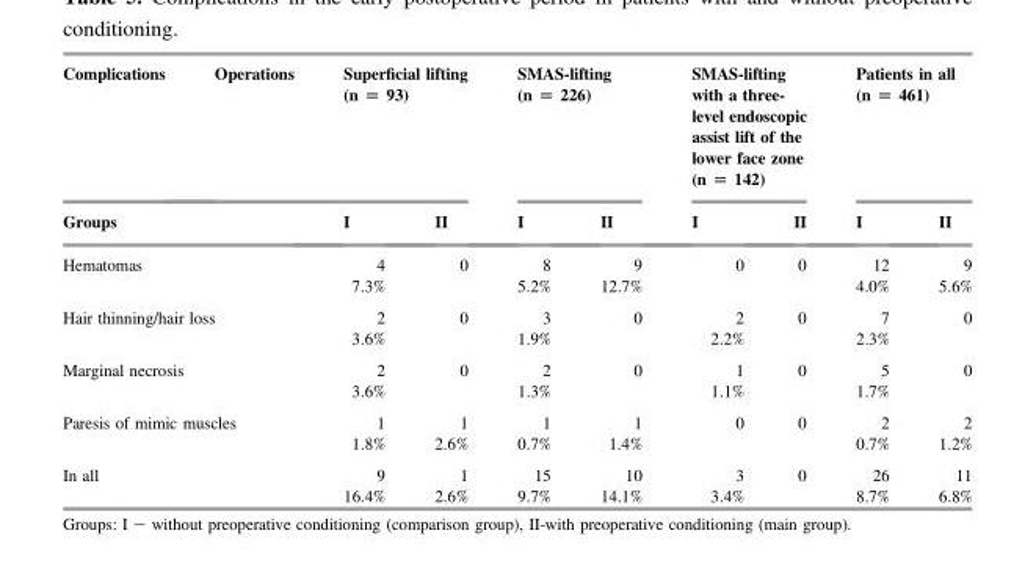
<table><thead><tr><td>Complications</td><td>Operations</td><td colspan="2">Superficial lifting (n = 93)</td><td colspan="2">SMAS-lifting (n = 226)</td><td colspan="2">SMAS-lifting with a three- level endoscopic assist lift of the lower face zone (n = 142)</td><td colspan="2">Patients in all (n = 461)</td></tr><tr><td colspan="2">Groups</td><td>I</td><td>II</td><td>I</td><td>II</td><td>I</td><td>II</td><td>I</td><td>II</td></tr></thead><tbody><tr><td colspan="2">Hematomas</td><td>4 7.3%</td><td>0</td><td>8 5.2%</td><td>9 12.7%</td><td>0</td><td>0</td><td>12 4.0%</td><td>9 5.6%</td></tr><tr><td colspan="2">Hair thinning/hair loss</td><td>2 3.6%</td><td>0</td><td>3 1.9%</td><td>0</td><td>2 2.2%</td><td>0</td><td>7 2.3%</td><td>0</td></tr><tr><td colspan="2">Marginal necrosis</td><td>2 3.6%</td><td>0</td><td>2 1.3%</td><td>0</td><td>1 1.1%</td><td>0</td><td>5 1.7%</td><td>0</td></tr><tr><td colspan="2">Paresis of mimic muscles</td><td>1 1.8%</td><td>1 2.6%</td><td>1 0.7%</td><td>1 1.4%</td><td>0</td><td>0</td><td>2 0.7%</td><td>2 1.2%</td></tr><tr><td colspan="2">In all</td><td>9 16.4%</td><td>1 2.6%</td><td>15 9.7%</td><td>10 14.1%</td><td>3 3.4%</td><td>0</td><td>26 8.7%</td><td>11 6.8%</td></tr></tbody></table>